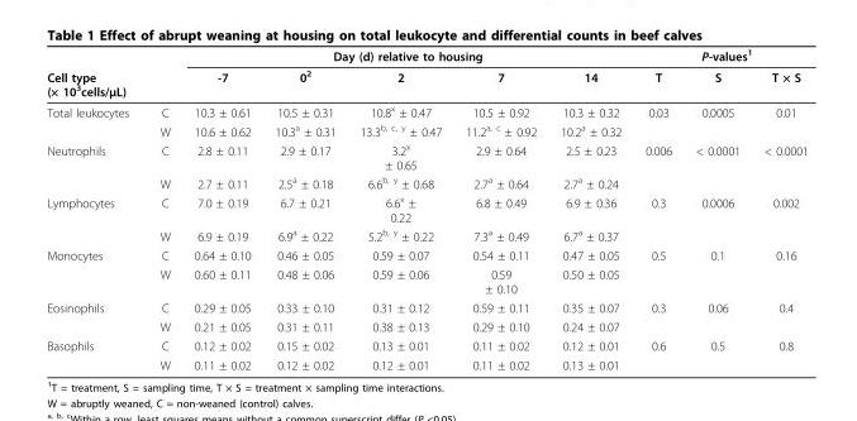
<table><thead><tr><td rowspan="2">Cell type (× 10<sup>3</sup>cells/μL)</td><td rowspan="2"></td><td colspan="5">Day (d) relative to housing</td><td colspan="3">P-values<sup>1</sup></td></tr><tr><td>-7</td><td>0<sup>2</sup></td><td>2</td><td>7</td><td>14</td><td>T</td><td>S</td><td>T × S</td></tr></thead><tbody><tr><td rowspan="2">Total leukocytes</td><td>C</td><td>10.3 ± 0.61</td><td>10.5 ± 0.31</td><td>10.8<sup>x</sup> ± 0.47</td><td>10.5 ± 0.92</td><td>10.3 ± 0.32</td><td>0.03</td><td>0.0005</td><td>0.01</td></tr><tr><td>W</td><td>10.6 ± 0.62</td><td>10.3<sup>a</sup> ± 0.31</td><td>13.3<sup>b, c, y</sup> ± 0.47</td><td>11.2<sup>a, c</sup> ± 0.92</td><td>10.2<sup>a</sup> ± 0.32</td><td></td><td></td><td></td></tr><tr><td rowspan="2">Neutrophils</td><td>C</td><td>2.8 ± 0.11</td><td>2.9 ± 0.17</td><td>3.2<sup>x</sup> ± 0.65</td><td>2.9 ± 0.64</td><td>2.5 ± 0.23</td><td>0.006</td><td>&lt; 0.0001</td><td>&lt; 0.0001</td></tr><tr><td>W</td><td>2.7 ± 0.11</td><td>2.5<sup>a</sup> ± 0.18</td><td>6.6<sup>b, y</sup> ± 0.68</td><td>2.7<sup>a</sup> ± 0.64</td><td>2.7<sup>a</sup> ± 0.24</td><td></td><td></td><td></td></tr><tr><td rowspan="2">Lymphocytes</td><td>C</td><td>7.0 ± 0.19</td><td>6.7 ± 0.21</td><td>6.6<sup>x</sup> ± 0.22</td><td>6.8 ± 0.49</td><td>6.9 ± 0.36</td><td>0.3</td><td>0.0006</td><td>0.002</td></tr><tr><td>W</td><td>6.9 ± 0.19</td><td>6.9<sup>a</sup> ± 0.22</td><td>5.2<sup>b, y</sup> ± 0.22</td><td>7.3<sup>a</sup> ± 0.49</td><td>6.7<sup>a</sup> ± 0.37</td><td></td><td></td><td></td></tr><tr><td rowspan="2">Monocytes</td><td>C</td><td>0.64 ± 0.10</td><td>0.46 ± 0.05</td><td>0.59 ± 0.07</td><td>0.54 ± 0.11</td><td>0.47 ± 0.05</td><td>0.5</td><td>0.1</td><td>0.16</td></tr><tr><td>W</td><td>0.60 ± 0.11</td><td>0.48 ± 0.06</td><td>0.59 ± 0.06</td><td>0.59 ± 0.10</td><td>0.50 ± 0.05</td><td></td><td></td><td></td></tr><tr><td rowspan="2">Eosinophils</td><td>C</td><td>0.29 ± 0.05</td><td>0.33 ± 0.10</td><td>0.31 ± 0.12</td><td>0.59 ± 0.11</td><td>0.35 ± 0.07</td><td>0.3</td><td>0.06</td><td>0.4</td></tr><tr><td>W</td><td>0.21 ± 0.05</td><td>0.31 ± 0.11</td><td>0.38 ± 0.13</td><td>0.29 ± 0.10</td><td>0.24 ± 0.07</td><td></td><td></td><td></td></tr><tr><td rowspan="2">Basophils</td><td>C</td><td>0.12 ± 0.02</td><td>0.15 ± 0.02</td><td>0.13 ± 0.01</td><td>0.11 ± 0.02</td><td>0.12 ± 0.01</td><td>0.6</td><td>0.5</td><td>0.8</td></tr><tr><td>W</td><td>0.11 ± 0.02</td><td>0.12 ± 0.02</td><td>0.12 ± 0.01</td><td>0.11 ± 0.02</td><td>0.13 ± 0.01</td><td></td><td></td><td></td></tr></tbody></table>